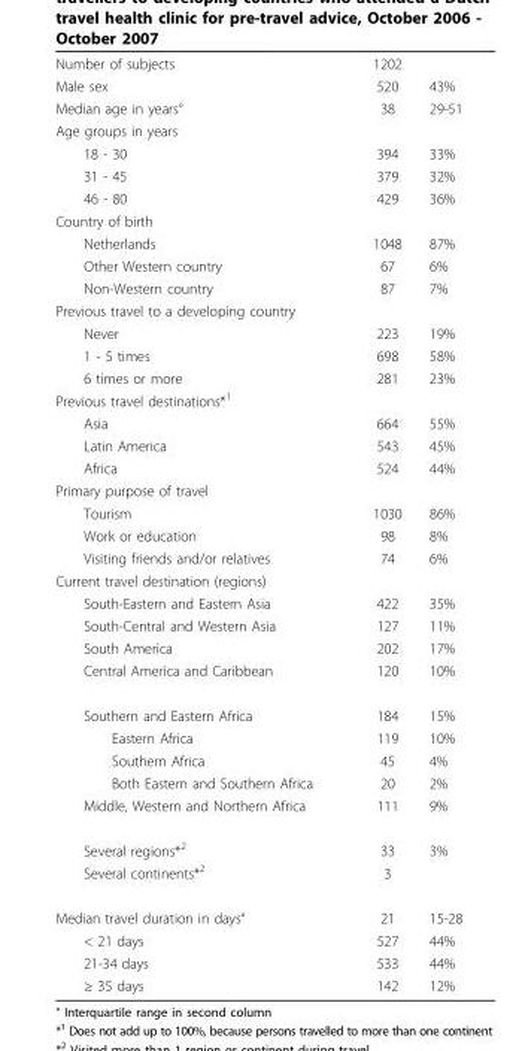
<table><tbody><tr><td>Number of subjects</td><td>1202</td><td></td></tr><tr><td>Male sex</td><td>520</td><td>43%</td></tr><tr><td>Median age in years°</td><td>38</td><td>29-51</td></tr><tr><td colspan="3">Age groups in years</td></tr><tr><td>18 - 30</td><td>394</td><td>33%</td></tr><tr><td>31 - 45</td><td>379</td><td>32%</td></tr><tr><td>46 - 80</td><td>429</td><td>36%</td></tr><tr><td colspan="3">Country of birth</td></tr><tr><td>Netherlands</td><td>1048</td><td>87%</td></tr><tr><td>Other Western country</td><td>67</td><td>6%</td></tr><tr><td>Non-Western country</td><td>87</td><td>7%</td></tr><tr><td colspan="3">Previous travel to a developing country</td></tr><tr><td>Never</td><td>223</td><td>19%</td></tr><tr><td>1 - 5 times</td><td>698</td><td>58%</td></tr><tr><td>6 times or more</td><td>281</td><td>23%</td></tr><tr><td colspan="3">Previous travel destinations*<sup>1</sup></td></tr><tr><td>Asia</td><td>664</td><td>55%</td></tr><tr><td>Latin America</td><td>543</td><td>45%</td></tr><tr><td>Africa</td><td>524</td><td>44%</td></tr><tr><td colspan="3">Primary purpose of travel</td></tr><tr><td>Tourism</td><td>1030</td><td>86%</td></tr><tr><td>Work or education</td><td>98</td><td>8%</td></tr><tr><td>Visiting friends and/or relatives</td><td>74</td><td>6%</td></tr><tr><td colspan="3">Current travel destination (regions)</td></tr><tr><td>South-Eastern and Eastern Asia</td><td>422</td><td>35%</td></tr><tr><td>South-Central and Western Asia</td><td>127</td><td>11%</td></tr><tr><td>South America</td><td>202</td><td>17%</td></tr><tr><td>Central America and Caribbean</td><td>120</td><td>10%</td></tr><tr><td>Southern and Eastern Africa</td><td>184</td><td>15%</td></tr><tr><td>Eastern Africa</td><td>119</td><td>10%</td></tr><tr><td>Southern Africa</td><td>45</td><td>4%</td></tr><tr><td>Both Eastern and Southern Africa</td><td>20</td><td>2%</td></tr><tr><td>Middle, Western and Northern Africa</td><td>111</td><td>9%</td></tr><tr><td>Several regions*<sup>2</sup></td><td>33</td><td>3%</td></tr><tr><td>Several continents*<sup>2</sup></td><td>3</td><td></td></tr><tr><td>Median travel duration in days°</td><td>21</td><td>15-28</td></tr><tr><td>&lt; 21 days</td><td>527</td><td>44%</td></tr><tr><td>21-34 days</td><td>533</td><td>44%</td></tr><tr><td>≥ 35 days</td><td>142</td><td>12%</td></tr></tbody></table>